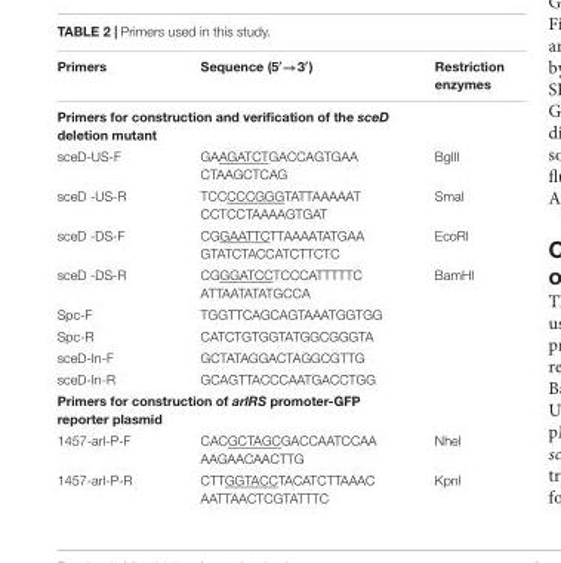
<table><thead><tr><td>Primers</td><td>Sequence (5′→3′)</td><td>Restriction enzymes</td></tr></thead><tbody><tr><td colspan="3">Primers for construction and verification of the sceD deletion mutant</td></tr><tr><td>sceD-US-F</td><td>GAAGATCTGACCAGTGAA CTAAGCTCAG</td><td>BglII</td></tr><tr><td>sceD -US-R</td><td>TCCCCCGGGTATTAAAAAT CCTCCTAAAAGTGAT</td><td>SmaI</td></tr><tr><td>sceD -DS-F</td><td>CGGAATTCTTAAAATATGAA GTATCTACCATCTTCTC</td><td>EcoRI</td></tr><tr><td>sceD -DS-R</td><td>CGGGATCCTCCCATTTTTC ATTAATATATGCCA</td><td>BamHI</td></tr><tr><td>Spc-F</td><td>TGGTTCAGCAGTAAATGGTGG</td><td></td></tr><tr><td>Spc-R</td><td>CATCTGTGGTATGGCGGGTA</td><td></td></tr><tr><td>sceD-In-F</td><td>GCTATAGGACTAGGCGTTG</td><td></td></tr><tr><td>sceD-In-R</td><td>GCAGTTACCCAATGACCTGG</td><td></td></tr><tr><td colspan="3">Primers for construction of arlRS promoter-GFP reporter plasmid</td></tr><tr><td>1457-arl-P-F</td><td>CACGCTAGCGACCAATCCAA AAGAACAACTTG</td><td>NheI</td></tr><tr><td>1457-arl-P-R</td><td>CTTGGTACCTACATCTTAAAC AATTAACTCGTATTTC</td><td>KpnI</td></tr></tbody></table>